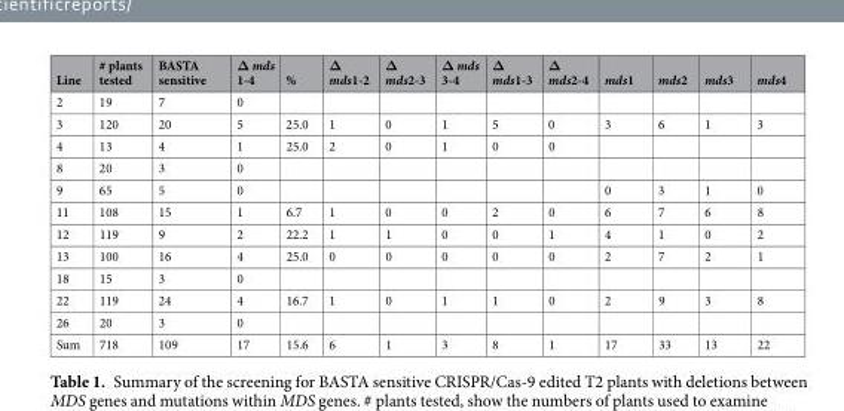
<table><thead><tr><td>Line</td><td># plants tested</td><td>BASTA sensitive</td><td>Δ mds 1-4</td><td>%</td><td>Δ mds1-2</td><td>Δ mds2-3</td><td>Δ mds 3-4</td><td>Δ mds1-3</td><td>Δ mds2-4</td><td>mds1</td><td>mds2</td><td>mds3</td><td>mds4</td></tr></thead><tbody><tr><td>2</td><td>19</td><td>7</td><td>0</td><td></td><td></td><td></td><td></td><td></td><td></td><td></td><td></td><td></td><td></td></tr><tr><td>3</td><td>120</td><td>20</td><td>5</td><td>25.0</td><td>1</td><td>0</td><td>1</td><td>5</td><td>0</td><td>3</td><td>6</td><td>1</td><td>3</td></tr><tr><td>4</td><td>13</td><td>4</td><td>1</td><td>25.0</td><td>2</td><td>0</td><td>1</td><td>0</td><td>0</td><td></td><td></td><td></td><td></td></tr><tr><td>8</td><td>20</td><td>3</td><td>0</td><td></td><td></td><td></td><td></td><td></td><td></td><td></td><td></td><td></td><td></td></tr><tr><td>9</td><td>65</td><td>5</td><td>0</td><td></td><td></td><td></td><td></td><td></td><td></td><td>0</td><td>3</td><td>1</td><td>0</td></tr><tr><td>11</td><td>108</td><td>15</td><td>1</td><td>6.7</td><td>1</td><td>0</td><td>0</td><td>2</td><td>0</td><td>6</td><td>7</td><td>6</td><td>8</td></tr><tr><td>12</td><td>119</td><td>9</td><td>2</td><td>22.2</td><td>1</td><td>1</td><td>0</td><td>0</td><td>1</td><td>4</td><td>1</td><td>0</td><td>2</td></tr><tr><td>13</td><td>100</td><td>16</td><td>4</td><td>25.0</td><td>0</td><td>0</td><td>0</td><td>0</td><td>0</td><td>2</td><td>7</td><td>2</td><td>1</td></tr><tr><td>18</td><td>15</td><td>3</td><td>0</td><td></td><td></td><td></td><td></td><td></td><td></td><td></td><td></td><td></td><td></td></tr><tr><td>22</td><td>119</td><td>24</td><td>4</td><td>16.7</td><td>1</td><td>0</td><td>1</td><td>1</td><td>0</td><td>2</td><td>9</td><td>3</td><td>8</td></tr><tr><td>26</td><td>20</td><td>3</td><td>0</td><td></td><td></td><td></td><td></td><td></td><td></td><td></td><td></td><td></td><td></td></tr><tr><td>Sum</td><td>718</td><td>109</td><td>17</td><td>15.6</td><td>6</td><td>1</td><td>3</td><td>8</td><td>1</td><td>17</td><td>33</td><td>13</td><td>22</td></tr></tbody></table>